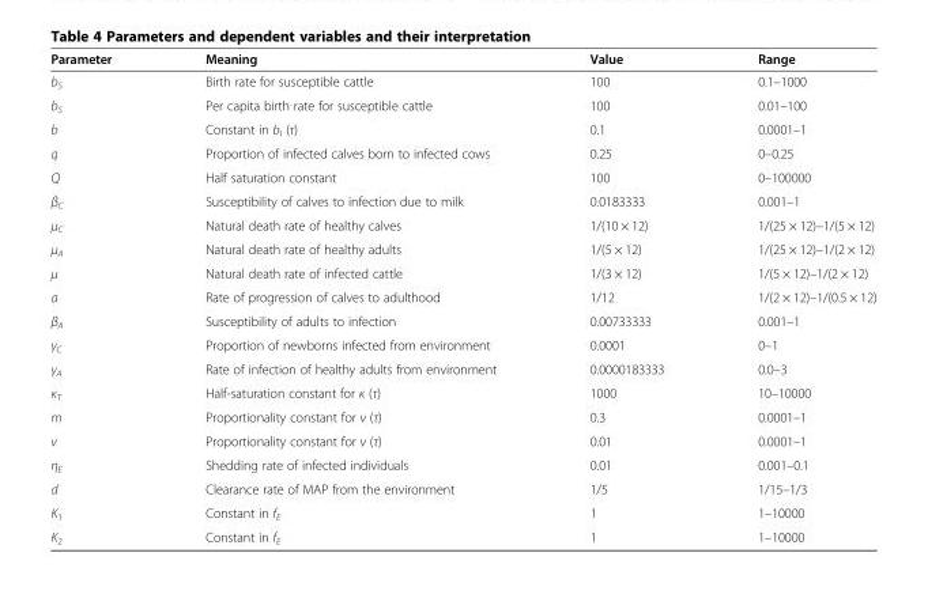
<table><thead><tr><td>Parameter</td><td>Meaning</td><td>Value</td><td>Range</td></tr></thead><tbody><tr><td>b<sub>S</sub></td><td>Birth rate for susceptible cattle</td><td>100</td><td>0.1–1000</td></tr><tr><td>b<sub>S</sub></td><td>Per capita birth rate for susceptible cattle</td><td>100</td><td>0.01–100</td></tr><tr><td>b</td><td>Constant in b<sub>I</sub> (τ)</td><td>0.1</td><td>0.0001–1</td></tr><tr><td>q</td><td>Proportion of infected calves born to infected cows</td><td>0.25</td><td>0–0.25</td></tr><tr><td>Q</td><td>Half saturation constant</td><td>100</td><td>0–100000</td></tr><tr><td>β<sub>C</sub></td><td>Susceptibility of calves to infection due to milk</td><td>0.0183333</td><td>0.001–1</td></tr><tr><td>μ<sub>C</sub></td><td>Natural death rate of healthy calves</td><td>1/(10 × 12)</td><td>1/(25 × 12)–1/(5 × 12)</td></tr><tr><td>μ<sub>A</sub></td><td>Natural death rate of healthy adults</td><td>1/(5 × 12)</td><td>1/(25 × 12)–1/(2 × 12)</td></tr><tr><td>μ</td><td>Natural death rate of infected cattle</td><td>1/(3 × 12)</td><td>1/(5 × 12)–1/(2 × 12)</td></tr><tr><td>a</td><td>Rate of progression of calves to adulthood</td><td>1/12</td><td>1/(2 × 12)–1/(0.5 × 12)</td></tr><tr><td>β<sub>A</sub></td><td>Susceptibility of adults to infection</td><td>0.00733333</td><td>0.001–1</td></tr><tr><td>γ<sub>C</sub></td><td>Proportion of newborns infected from environment</td><td>0.0001</td><td>0–1</td></tr><tr><td>γ<sub>A</sub></td><td>Rate of infection of healthy adults from environment</td><td>0.0000183333</td><td>0.0–3</td></tr><tr><td>κ<sub>T</sub></td><td>Half-saturation constant for κ (τ)</td><td>1000</td><td>10–10000</td></tr><tr><td>m</td><td>Proportionality constant for ν (τ)</td><td>0.3</td><td>0.0001–1</td></tr><tr><td>v</td><td>Proportionality constant for ν (τ)</td><td>0.01</td><td>0.0001–1</td></tr><tr><td>η<sub>E</sub></td><td>Shedding rate of infected individuals</td><td>0.01</td><td>0.001–0.1</td></tr><tr><td>d</td><td>Clearance rate of MAP from the environment</td><td>1/5</td><td>1/15–1/3</td></tr><tr><td>K<sub>1</sub></td><td>Constant in f<sub>E</sub></td><td>1</td><td>1–10000</td></tr><tr><td>K<sub>2</sub></td><td>Constant in f<sub>E</sub></td><td>1</td><td>1–10000</td></tr></tbody></table>